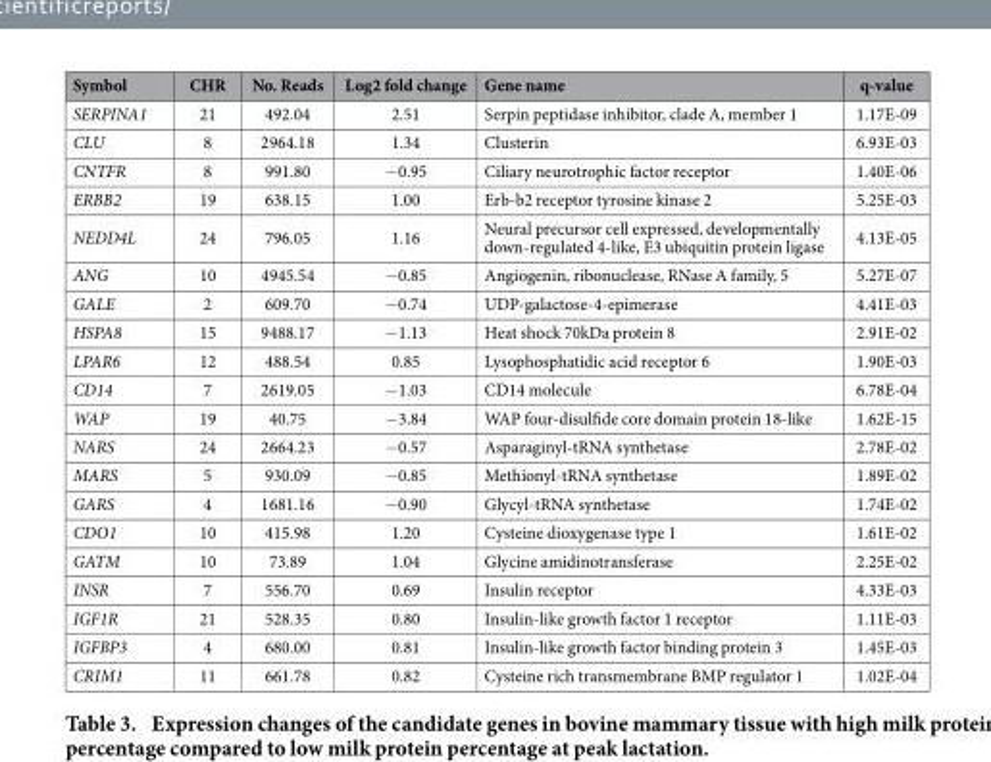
<table><thead><tr><td>Symbol</td><td>CHR</td><td>No. Reads</td><td>Log2 fold change</td><td>Gene name</td><td>q-value</td></tr></thead><tbody><tr><td>SERPINA1</td><td>21</td><td>492.04</td><td>2.51</td><td>Serpin peptidase inhibitor, clade A, member 1</td><td>1.17E-09</td></tr><tr><td>CLU</td><td>8</td><td>2964.18</td><td>1.34</td><td>Clusterin</td><td>6.93E-03</td></tr><tr><td>CNTFR</td><td>8</td><td>991.80</td><td>− 0.95</td><td>Ciliary neurotrophic factor receptor</td><td>1.40E-06</td></tr><tr><td>ERBB2</td><td>19</td><td>638.15</td><td>1.00</td><td>Erb-b2 receptor tyrosine kinase 2</td><td>5.25E-03</td></tr><tr><td>NEDD4L</td><td>24</td><td>796.05</td><td>1.16</td><td>Neural precursor cell expressed, developmentally down-regulated 4-like, E3 ubiquitin protein ligase</td><td>4.13E-05</td></tr><tr><td>ANG</td><td>10</td><td>4945.54</td><td>− 0.85</td><td>Angiogenin, ribonuclease, RNase A family, 5</td><td>5.27E-07</td></tr><tr><td>GALE</td><td>2</td><td>609.70</td><td>− 0.74</td><td>UDP-galactose-4-epimerase</td><td>4.41E-03</td></tr><tr><td>HSPA8</td><td>15</td><td>9488.17</td><td>− 1.13</td><td>Heat shock 70kDa protein 8</td><td>2.91E-02</td></tr><tr><td>LPAR6</td><td>12</td><td>488.54</td><td>0.85</td><td>Lysophosphatidic acid receptor 6</td><td>1.90E-03</td></tr><tr><td>CD14</td><td>7</td><td>2619.05</td><td>− 1.03</td><td>CD14 molecule</td><td>6.78E-04</td></tr><tr><td>WAP</td><td>19</td><td>40.75</td><td>− 3.84</td><td>WAP four-disulfide core domain protein 18-like</td><td>1.62E-15</td></tr><tr><td>NARS</td><td>24</td><td>2664.23</td><td>− 0.57</td><td>Asparaginyl-tRNA synthetase</td><td>2.78E-02</td></tr><tr><td>MARS</td><td>5</td><td>930.09</td><td>− 0.85</td><td>Methionyl-tRNA synthetase</td><td>1.89E-02</td></tr><tr><td>GARS</td><td>4</td><td>1681.16</td><td>− 0.90</td><td>Glycyl-tRNA synthetase</td><td>1.74E-02</td></tr><tr><td>CDO1</td><td>10</td><td>415.98</td><td>1.20</td><td>Cysteine dioxygenase type 1</td><td>1.61E-02</td></tr><tr><td>GATM</td><td>10</td><td>73.89</td><td>1.04</td><td>Glycine amidinotransferase</td><td>2.25E-02</td></tr><tr><td>INSR</td><td>7</td><td>556.70</td><td>0.69</td><td>Insulin receptor</td><td>4.33E-03</td></tr><tr><td>IGF1R</td><td>21</td><td>528.35</td><td>0.80</td><td>Insulin-like growth factor 1 receptor</td><td>1.11E-03</td></tr><tr><td>IGFBP3</td><td>4</td><td>680.00</td><td>0.81</td><td>Insulin-like growth factor binding protein 3</td><td>1.45E-03</td></tr><tr><td>CRIM1</td><td>11</td><td>661.78</td><td>0.82</td><td>Cysteine rich transmembrane BMP regulator 1</td><td>1.02E-04</td></tr></tbody></table>